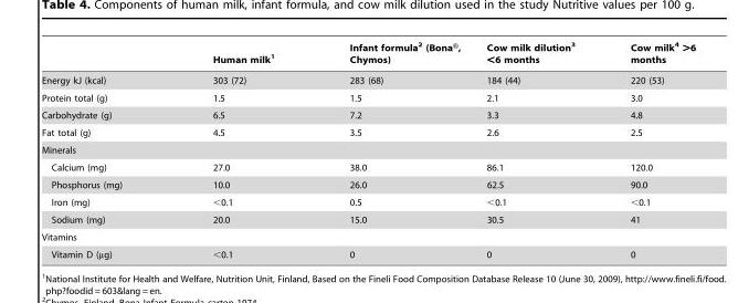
<table><thead><tr><td></td><td>Human milk<sup>1</sup></td><td>Infant formula<sup>2</sup> (Bona®, Chymos)</td><td>Cow milk dilution<sup>3</sup> &lt;6 months</td><td>Cow milk<sup>4</sup> &gt;6 months</td></tr></thead><tbody><tr><td>Energy kJ (kcal)</td><td>303 (72)</td><td>283 (68)</td><td>184 (44)</td><td>220 (53)</td></tr><tr><td>Protein total (g)</td><td>1.5</td><td>1.5</td><td>2.1</td><td>3.0</td></tr><tr><td>Carbohydrate (g)</td><td>6.5</td><td>7.2</td><td>3.3</td><td>4.8</td></tr><tr><td>Fat total (g)</td><td>4.5</td><td>3.5</td><td>2.6</td><td>2.5</td></tr><tr><td colspan="5">Minerals</td></tr><tr><td>Calcium (mg)</td><td>27.0</td><td>38.0</td><td>86.1</td><td>120.0</td></tr><tr><td>Phosphorus (mg)</td><td>10.0</td><td>26.0</td><td>62.5</td><td>90.0</td></tr><tr><td>Iron (mg)</td><td>&lt;0.1</td><td>0.5</td><td>&lt;0.1</td><td>&lt;0.1</td></tr><tr><td>Sodium (mg)</td><td>20.0</td><td>15.0</td><td>30.5</td><td>41</td></tr><tr><td colspan="5">Vitamins</td></tr><tr><td>Vitamin D (µg)</td><td>&lt;0.1</td><td>0</td><td>0</td><td>0</td></tr></tbody></table>